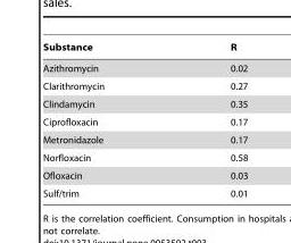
<table><thead><tr><td>Substance</td><td>R</td></tr></thead><tbody><tr><td>Azithromycin</td><td>0.02</td></tr><tr><td>Clarithromycin</td><td>0.27</td></tr><tr><td>Clindamycin</td><td>0.35</td></tr><tr><td>Ciprofloxacin</td><td>0.17</td></tr><tr><td>Metronidazole</td><td>0.17</td></tr><tr><td>Norfloxacin</td><td>0.58</td></tr><tr><td>Ofloxacin</td><td>0.03</td></tr><tr><td>Sulf/trim</td><td>0.01</td></tr></tbody></table>